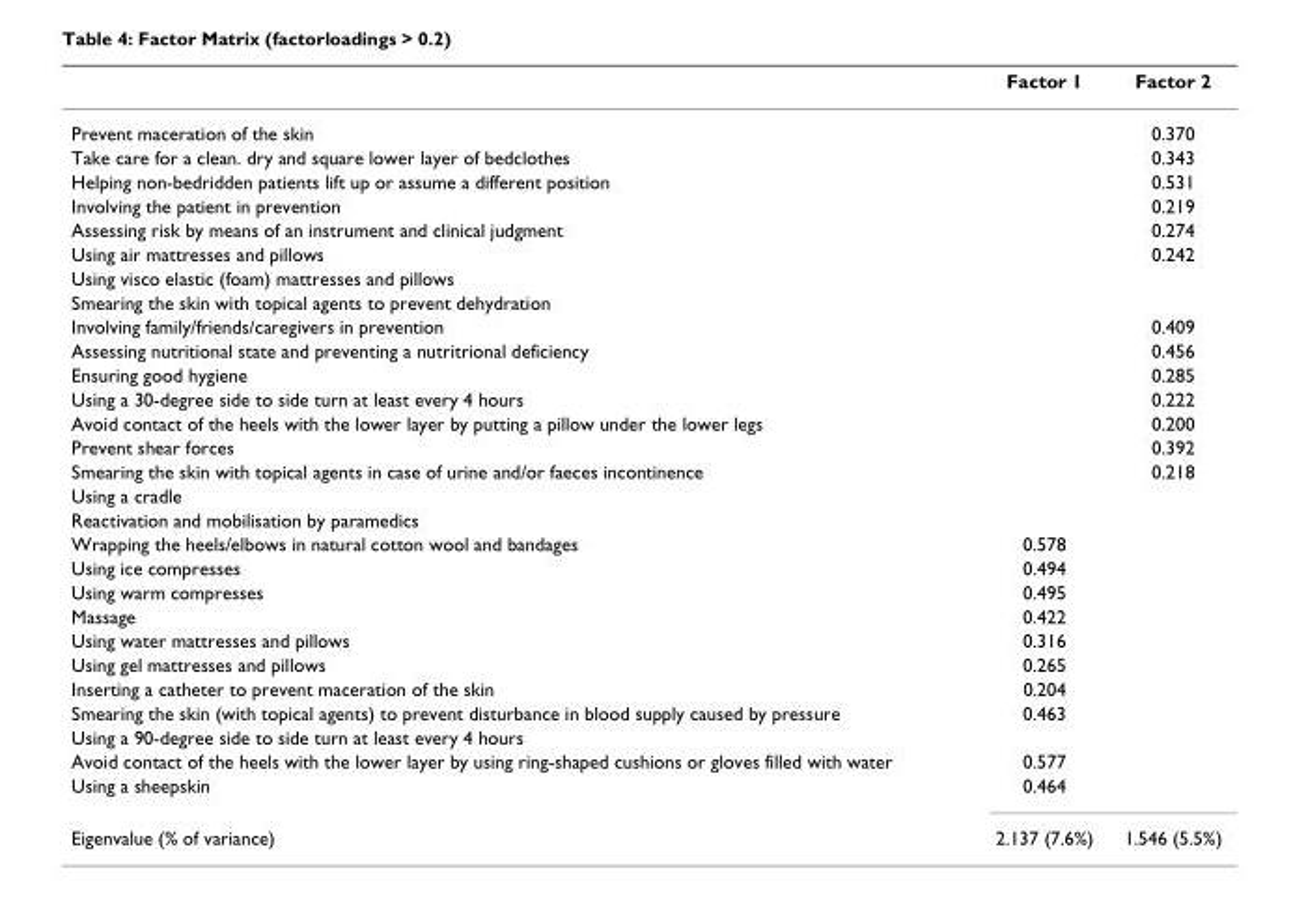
<table><thead><tr><td></td><td>Factor 1</td><td>Factor 2</td></tr></thead><tbody><tr><td>Prevent maceration of the skin</td><td></td><td>0.370</td></tr><tr><td>Take care for a clean. dry and square lower layer of bedclothes</td><td></td><td>0.343</td></tr><tr><td>Helping non-bedridden patients lift up or assume a different position</td><td></td><td>0.531</td></tr><tr><td>Involving the patient in prevention</td><td></td><td>0.219</td></tr><tr><td>Assessing risk by means of an instrument and clinical judgment</td><td></td><td>0.274</td></tr><tr><td>Using air mattresses and pillows</td><td></td><td>0.242</td></tr><tr><td colspan="3">Using visco elastic (foam) mattresses and pillows</td></tr><tr><td colspan="3">Smearing the skin with topical agents to prevent dehydration</td></tr><tr><td>Involving family/friends/caregivers in prevention</td><td></td><td>0.409</td></tr><tr><td>Assessing nutritional state and preventing a nutritrional deficiency</td><td></td><td>0.456</td></tr><tr><td>Ensuring good hygiene</td><td></td><td>0.285</td></tr><tr><td>Using a 30-degree side to side turn at least every 4 hours</td><td></td><td>0.222</td></tr><tr><td>Avoid contact of the heels with the lower layer by putting a pillow under the lower legs</td><td></td><td>0.200</td></tr><tr><td>Prevent shear forces</td><td></td><td>0.392</td></tr><tr><td>Smearing the skin with topical agents in case of urine and/or faeces incontinence</td><td></td><td>0.218</td></tr><tr><td colspan="3">Using a cradle</td></tr><tr><td colspan="3">Reactivation and mobilisation by paramedics</td></tr><tr><td>Wrapping the heels/elbows in natural cotton wool and bandages</td><td>0.578</td><td></td></tr><tr><td>Using ice compresses</td><td>0.494</td><td></td></tr><tr><td>Using warm compresses</td><td>0.495</td><td></td></tr><tr><td>Massage</td><td>0.422</td><td></td></tr><tr><td>Using water mattresses and pillows</td><td>0.316</td><td></td></tr><tr><td>Using gel mattresses and pillows</td><td>0.265</td><td></td></tr><tr><td>Inserting a catheter to prevent maceration of the skin</td><td>0.204</td><td></td></tr><tr><td>Smearing the skin (with topical agents) to prevent disturbance in blood supply caused by pressure</td><td>0.463</td><td></td></tr><tr><td colspan="3">Using a 90-degree side to side turn at least every 4 hours</td></tr><tr><td>Avoid contact of the heels with the lower layer by using ring-shaped cushions or gloves filled with water</td><td>0.577</td><td></td></tr><tr><td>Using a sheepskin</td><td>0.464</td><td></td></tr><tr><td>Eigenvalue (% of variance)</td><td>2.137 (7.6%)</td><td>1.546 (5.5%)</td></tr></tbody></table>